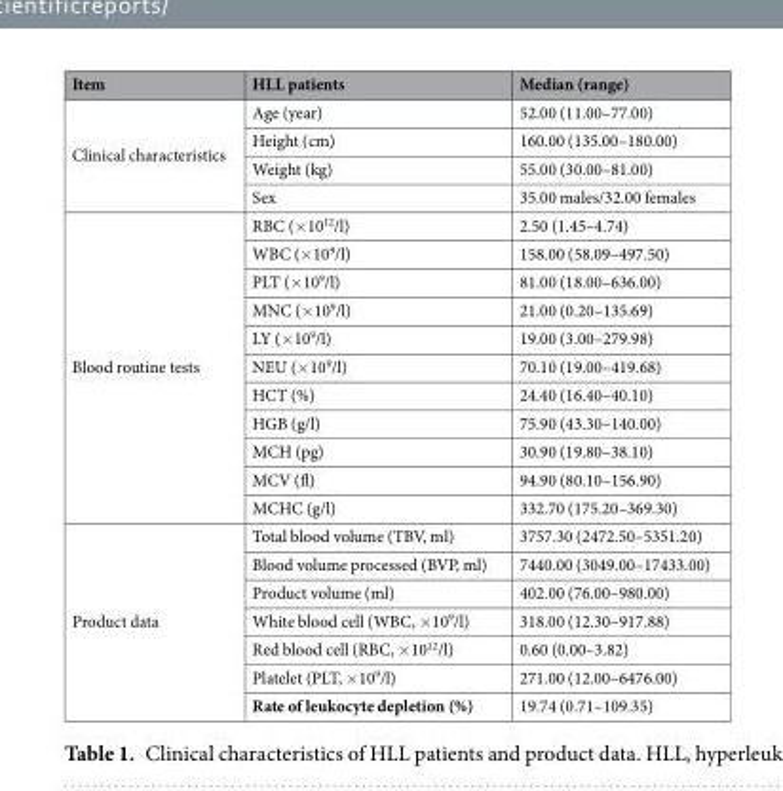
<table><thead><tr><td>Item</td><td>HLL patients</td><td>Median (range)</td></tr></thead><tbody><tr><td rowspan="4">Clinical characteristics</td><td>Age (year)</td><td>52.00 (11.00–77.00)</td></tr><tr><td>Height (cm)</td><td>160.00 (135.00–180.00)</td></tr><tr><td>Weight (kg)</td><td>55.00 (30.00–81.00)</td></tr><tr><td>Sex</td><td>35.00 males/32.00 females</td></tr><tr><td rowspan="11">Blood routine tests</td><td>RBC (×10<sup>12</sup>/l)</td><td>2.50 (1.45–4.74)</td></tr><tr><td>WBC (×10<sup>9</sup>/l)</td><td>158.00 (58.09–497.50)</td></tr><tr><td>PLT (×10<sup>9</sup>/l)</td><td>81.00 (18.00–636.00)</td></tr><tr><td>MNC (×10<sup>9</sup>/l)</td><td>21.00 (0.20–135.69)</td></tr><tr><td>LY (×10<sup>9</sup>/l)</td><td>19.00 (3.00–279.98)</td></tr><tr><td>NEU (×10<sup>9</sup>/l)</td><td>70.10 (19.00–419.68)</td></tr><tr><td>HCT (%)</td><td>24.40 (16.40–40.10)</td></tr><tr><td>HGB (g/l)</td><td>75.90 (43.30–140.00)</td></tr><tr><td>MCH (pg)</td><td>30.90 (19.80–38.10)</td></tr><tr><td>MCV (fl)</td><td>94.90 (80.10–156.90)</td></tr><tr><td>MCHC (g/l)</td><td>332.70 (175.20–369.30)</td></tr><tr><td rowspan="7">Product data</td><td>Total blood volume (TBV, ml)</td><td>3757.30 (2472.50–5351.20)</td></tr><tr><td>Blood volume processed (BVP, ml)</td><td>7440.00 (3049.00–17433.00)</td></tr><tr><td>Product volume (ml)</td><td>402.00 (76.00–980.00)</td></tr><tr><td>White blood cell (WBC, ×10<sup>9</sup>/l)</td><td>318.00 (12.30–917.88)</td></tr><tr><td>Red blood cell (RBC, ×10<sup>12</sup>/l)</td><td>0.60 (0.00–3.82)</td></tr><tr><td>Platelet (PLT, ×10<sup>9</sup>/l)</td><td>271.00 (12.00–6476.00)</td></tr><tr><td>Rate of leukocyte depletion (%)</td><td>19.74 (0.71–109.35)</td></tr></tbody></table>